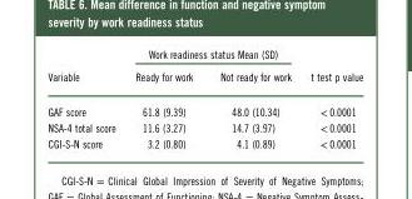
<table><thead><tr><td rowspan="2">Variable</td><td colspan="2">Work readiness status Mean (SD)</td><td rowspan="2">t test p value</td></tr><tr><td>Ready for work</td><td>Not ready for work</td></tr></thead><tbody><tr><td>GAF score</td><td>61.8 (9.39)</td><td>48.0 (10.34)</td><td>&lt; 0.0001</td></tr><tr><td>NSA-4 total score</td><td>11.6 (3.27)</td><td>14.7 (3.97)</td><td>&lt; 0.0001</td></tr><tr><td>CGI-S-N score</td><td>3.2 (0.80)</td><td>4.1 (0.89)</td><td>&lt; 0.0001</td></tr></tbody></table>